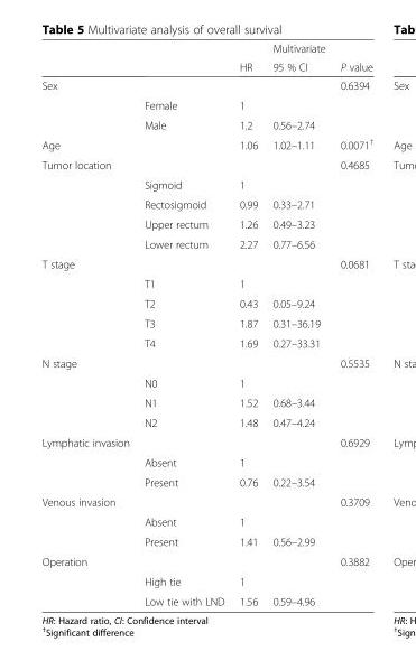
<table><thead><tr><td rowspan="2"></td><td rowspan="2"></td><td rowspan="2">HR</td><td rowspan="2">Multivariate 95 % CI</td><td rowspan="2">P value</td></tr><tr></tr></thead><tbody><tr><td rowspan="3">Sex</td><td></td><td></td><td></td><td>0.6394</td></tr><tr><td>Female</td><td>1</td><td></td><td></td></tr><tr><td>Male</td><td>1.2</td><td>0.56–2.74</td><td></td></tr><tr><td>Age</td><td></td><td>1.06</td><td>1.02–1.11</td><td>0.0071<sup>†</sup></td></tr><tr><td rowspan="5">Tumor location</td><td></td><td></td><td></td><td>0.4685</td></tr><tr><td>Sigmoid</td><td>1</td><td></td><td></td></tr><tr><td>Rectosigmoid</td><td>0.99</td><td>0.33–2.71</td><td></td></tr><tr><td>Upper rectum</td><td>1.26</td><td>0.49–3.23</td><td></td></tr><tr><td>Lower rectum</td><td>2.27</td><td>0.77–6.56</td><td></td></tr><tr><td rowspan="5">T stage</td><td></td><td></td><td></td><td>0.0681</td></tr><tr><td>T1</td><td>1</td><td></td><td></td></tr><tr><td>T2</td><td>0.43</td><td>0.05–9.24</td><td></td></tr><tr><td>T3</td><td>1.87</td><td>0.31–36.19</td><td></td></tr><tr><td>T4</td><td>1.69</td><td>0.27–33.31</td><td></td></tr><tr><td rowspan="4">N stage</td><td></td><td></td><td></td><td>0.5535</td></tr><tr><td>N0</td><td>1</td><td></td><td></td></tr><tr><td>N1</td><td>1.52</td><td>0.68–3.44</td><td></td></tr><tr><td>N2</td><td>1.48</td><td>0.47–4.24</td><td></td></tr><tr><td rowspan="3">Lymphatic invasion</td><td></td><td></td><td></td><td>0.6929</td></tr><tr><td>Absent</td><td>1</td><td></td><td></td></tr><tr><td>Present</td><td>0.76</td><td>0.22–3.54</td><td></td></tr><tr><td rowspan="3">Venous invasion</td><td></td><td></td><td></td><td>0.3709</td></tr><tr><td>Absent</td><td>1</td><td></td><td></td></tr><tr><td>Present</td><td>1.41</td><td>0.56–2.99</td><td></td></tr><tr><td rowspan="3">Operation</td><td></td><td></td><td></td><td>0.3882</td></tr><tr><td>High tie</td><td>1</td><td></td><td></td></tr><tr><td>Low tie with LND</td><td>1.56</td><td>0.59–4.96</td><td></td></tr></tbody></table>